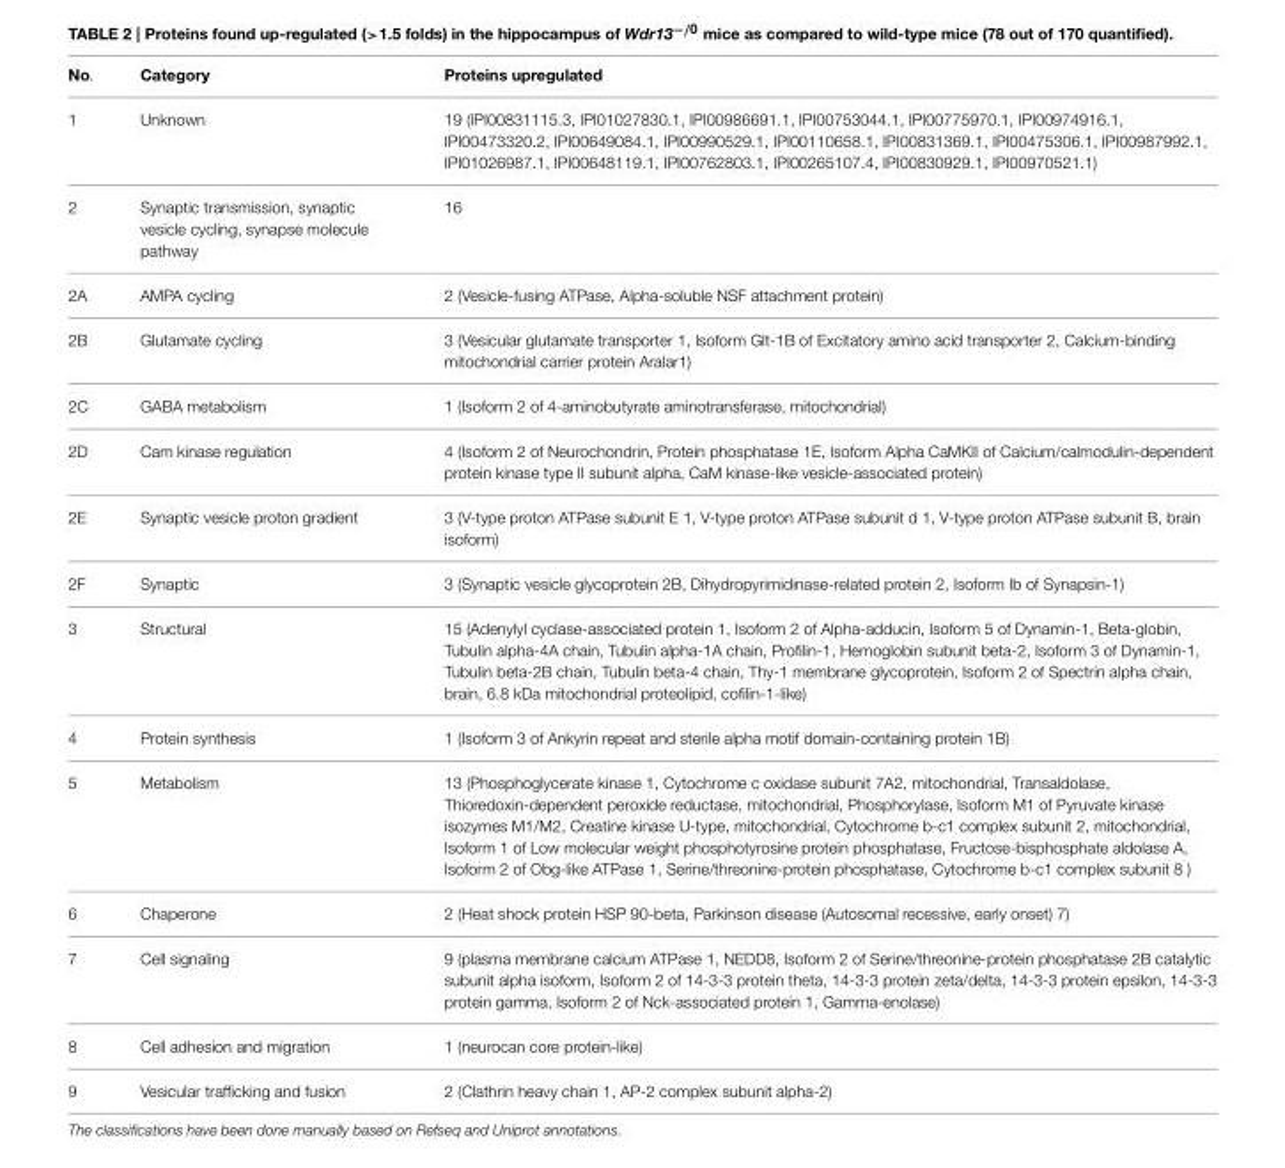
<table><thead><tr><td>No.</td><td>Category</td><td>Proteins upregulated</td></tr></thead><tbody><tr><td>1</td><td>Unknown</td><td>19 (IPI00831115.3, IPI01027830.1, IPI00986691.1, IPI00753044.1, IPI00775970.1, IPI00974916.1, IPI00473320.2, IPI00649084.1, IPI00990529.1, IPI00110658.1, IPI00831369.1, IPI00475306.1, IPI00987992.1, IPI01026987.1, IPI00648119.1, IPI00762803.1, IPI00265107.4, IPI00830929.1, IPI00970521.1)</td></tr><tr><td>2</td><td>Synaptic transmission, synaptic vesicle cycling, synapse molecule pathway</td><td>16</td></tr><tr><td>2A</td><td>AMPA cycling</td><td>2 (Vesicle-fusing ATPase, Alpha-soluble NSF attachment protein)</td></tr><tr><td>2B</td><td>Glutamate cycling</td><td>3 (Vesicular glutamate transporter 1, Isoform Glt-1B of Excitatory amino acid transporter 2, Calcium-binding mitochondrial carrier protein Aralar1)</td></tr><tr><td>2C</td><td>GABA metabolism</td><td>1 (Isoform 2 of 4-aminobutyrate aminotransferase, mitochondrial)</td></tr><tr><td>2D</td><td>Cam kinase regulation</td><td>4 (Isoform 2 of Neurochondrin, Protein phosphatase 1E, Isoform Alpha CaMKII of Calcium/calmodulin-dependent protein kinase type II subunit alpha, CaM kinase-like vesicle-associated protein)</td></tr><tr><td>2E</td><td>Synaptic vesicle proton gradient</td><td>3 (V-type proton ATPase subunit E 1, V-type proton ATPase subunit d 1, V-type proton ATPase subunit B, brain isoform)</td></tr><tr><td>2F</td><td>Synaptic</td><td>3 (Synaptic vesicle glycoprotein 2B, Dihydropyrimidinase-related protein 2, Isoform Ib of Synapsin-1)</td></tr><tr><td>3</td><td>Structural</td><td>15 (Adenylyl cyclase-associated protein 1, Isoform 2 of Alpha-adducin, Isoform 5 of Dynamin-1, Beta-globin, Tubulin alpha-4A chain, Tubulin alpha-1A chain, Profilin-1, Hemoglobin subunit beta-2, Isoform 3 of Dynamin-1, Tubulin beta-2B chain, Tubulin beta-4 chain, Thy-1 membrane glycoprotein, Isoform 2 of Spectrin alpha chain, brain, 6.8 kDa mitochondrial proteolipid, cofilin-1-like)</td></tr><tr><td>4</td><td>Protein synthesis</td><td>1 (Isoform 3 of Ankyrin repeat and sterile alpha motif domain-containing protein 1B)</td></tr><tr><td>5</td><td>Metabolism</td><td>13 (Phosphoglycerate kinase 1, Cytochrome c oxidase subunit 7A2, mitochondrial, Transaldolase, Thioredoxin-dependent peroxide reductase, mitochondrial, Phosphorylase, Isoform M1 of Pyruvate kinase isozymes M1/M2, Creatine kinase U-type, mitochondrial, Cytochrome b-c1 complex subunit 2, mitochondrial, Isoform 1 of Low molecular weight phosphotyrosine protein phosphatase, Fructose-bisphosphate aldolase A, Isoform 2 of Obg-like ATPase 1, Serine/threonine-protein phosphatase, Cytochrome b-c1 complex subunit 8 )</td></tr><tr><td>6</td><td>Chaperone</td><td>2 (Heat shock protein HSP 90-beta, Parkinson disease (Autosomal recessive, early onset) 7)</td></tr><tr><td>7</td><td>Cell signaling</td><td>9 (plasma membrane calcium ATPase 1, NEDD8, Isoform 2 of Serine/threonine-protein phosphatase 2B catalytic subunit alpha isoform, Isoform 2 of 14-3-3 protein theta, 14-3-3 protein zeta/delta, 14-3-3 protein epsilon, 14-3-3 protein gamma, Isoform 2 of Nck-associated protein 1, Gamma-enolase)</td></tr><tr><td>8</td><td>Cell adhesion and migration</td><td>1 (neurocan core protein-like)</td></tr><tr><td>9</td><td>Vesicular trafficking and fusion</td><td>2 (Clathrin heavy chain 1, AP-2 complex subunit alpha-2)</td></tr></tbody></table>